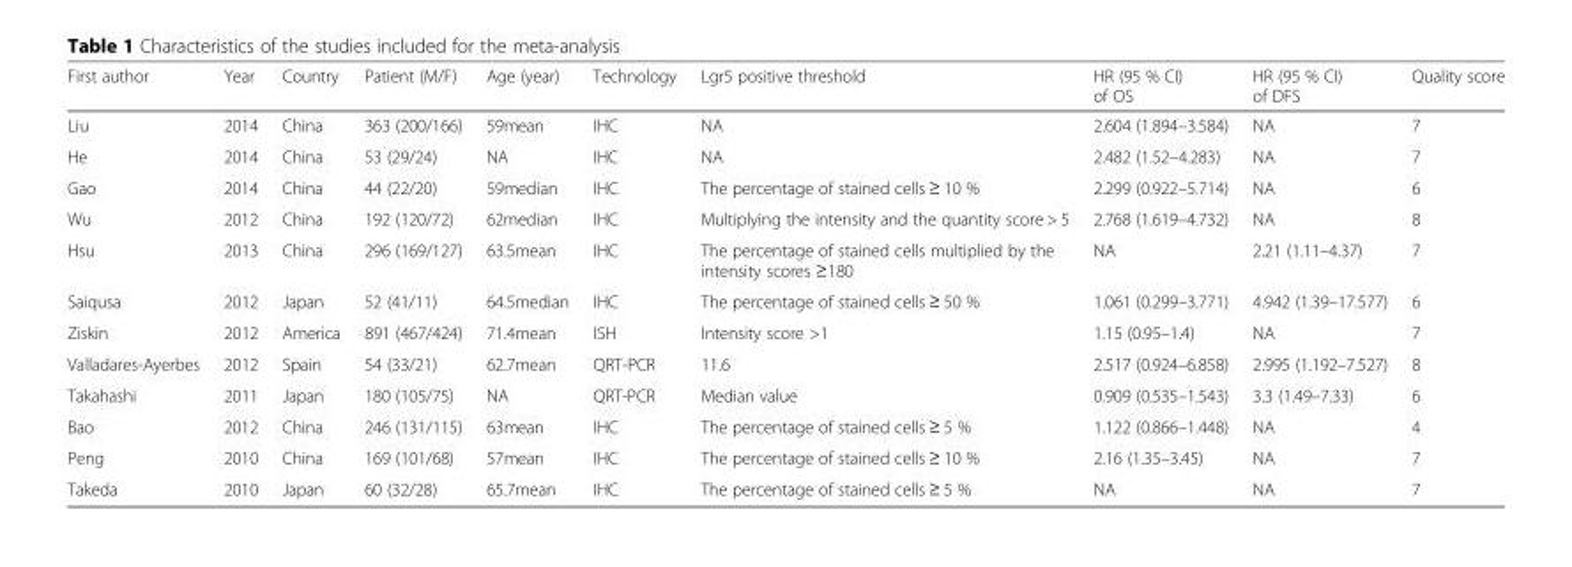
<table><thead><tr><td>First author</td><td>Year</td><td>Country</td><td>Patient (M/F)</td><td>Age (year)</td><td>Technology</td><td>Lgr5 positive threshold</td><td>HR (95 % CI) of OS</td><td>HR (95 % CI) of DFS</td><td>Quality score</td></tr></thead><tbody><tr><td>Liu</td><td>2014</td><td>China</td><td>363 (200/166)</td><td>59mean</td><td>IHC</td><td>NA</td><td>2.604 (1.894–3.584)</td><td>NA</td><td>7</td></tr><tr><td>He</td><td>2014</td><td>China</td><td>53 (29/24)</td><td>NA</td><td>IHC</td><td>NA</td><td>2.482 (1.52–4.283)</td><td>NA</td><td>7</td></tr><tr><td>Gao</td><td>2014</td><td>China</td><td>44 (22/20)</td><td>59median</td><td>IHC</td><td>The percentage of stained cells ≥ 10 %</td><td>2.299 (0.922–5.714)</td><td>NA</td><td>6</td></tr><tr><td>Wu</td><td>2012</td><td>China</td><td>192 (120/72)</td><td>62median</td><td>IHC</td><td>Multiplying the intensity and the quantity score &gt; 5</td><td>2.768 (1.619–4.732)</td><td>NA</td><td>8</td></tr><tr><td>Hsu</td><td>2013</td><td>China</td><td>296 (169/127)</td><td>63.5mean</td><td>IHC</td><td>The percentage of stained cells multiplied by the intensity scores ≥180</td><td>NA</td><td>2.21 (1.11–4.37)</td><td>7</td></tr><tr><td>Saiqusa</td><td>2012</td><td>Japan</td><td>52 (41/11)</td><td>64.5median</td><td>IHC</td><td>The percentage of stained cells ≥ 50 %</td><td>1.061 (0.299–3.771)</td><td>4.942 (1.39–17.577)</td><td>6</td></tr><tr><td>Ziskin</td><td>2012</td><td>America</td><td>891 (467/424)</td><td>71.4mean</td><td>ISH</td><td>Intensity score &gt;1</td><td>1.15 (0.95–1.4)</td><td>NA</td><td>7</td></tr><tr><td>Valladares-Ayerbes</td><td>2012</td><td>Spain</td><td>54 (33/21)</td><td>62.7mean</td><td>QRT-PCR</td><td>11.6</td><td>2.517 (0.924–6.858)</td><td>2.995 (1.192–7.527)</td><td>8</td></tr><tr><td>Takahashi</td><td>2011</td><td>Japan</td><td>180 (105/75)</td><td>NA</td><td>QRT-PCR</td><td>Median value</td><td>0.909 (0.535–1.543)</td><td>3.3 (1.49–7.33)</td><td>6</td></tr><tr><td>Bao</td><td>2012</td><td>China</td><td>246 (131/115)</td><td>63mean</td><td>IHC</td><td>The percentage of stained cells ≥ 5 %</td><td>1.122 (0.866–1.448)</td><td>NA</td><td>4</td></tr><tr><td>Peng</td><td>2010</td><td>China</td><td>169 (101/68)</td><td>57mean</td><td>IHC</td><td>The percentage of stained cells ≥ 10 %</td><td>2.16 (1.35–3.45)</td><td>NA</td><td>7</td></tr><tr><td>Takeda</td><td>2010</td><td>Japan</td><td>60 (32/28)</td><td>65.7mean</td><td>IHC</td><td>The percentage of stained cells ≥ 5 %</td><td>NA</td><td>NA</td><td>7</td></tr></tbody></table>